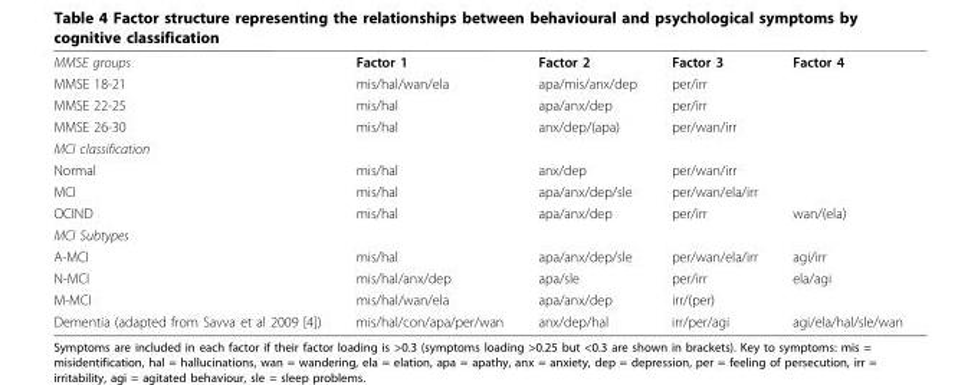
<table><tbody><tr><td>MMSE groups</td><td>Factor 1</td><td>Factor 2</td><td>Factor 3</td><td>Factor 4</td></tr><tr><td>MMSE 18-21</td><td>mis/hal/wan/ela</td><td>apa/mis/anx/dep</td><td>per/irr</td><td></td></tr><tr><td>MMSE 22-25</td><td>mis/hal</td><td>apa/anx/dep</td><td>per/irr</td><td></td></tr><tr><td>MMSE 26-30</td><td>mis/hal</td><td>anx/dep/(apa)</td><td>per/wan/irr</td><td></td></tr><tr><td colspan="5">MCI classification</td></tr><tr><td>Normal</td><td>mis/hal</td><td>anx/dep</td><td>per/wan/irr</td><td></td></tr><tr><td>MCI</td><td>mis/hal</td><td>apa/anx/dep/sle</td><td>per/wan/ela/irr</td><td></td></tr><tr><td>OCIND</td><td>mis/hal</td><td>apa/anx/dep</td><td>per/irr</td><td>wan/(ela)</td></tr><tr><td colspan="5">MCI Subtypes</td></tr><tr><td>A-MCI</td><td>mis/hal</td><td>apa/anx/dep/sle</td><td>per/wan/ela/irr</td><td>agi/irr</td></tr><tr><td>N-MCI</td><td>mis/hal/anx/dep</td><td>apa/sle</td><td>per/irr</td><td>ela/agi</td></tr><tr><td>M-MCI</td><td>mis/hal/wan/ela</td><td>apa/anx/dep</td><td>irr/(per)</td><td></td></tr><tr><td>Dementia (adapted from Savva et al 2009 [4])</td><td>mis/hal/con/apa/per/wan</td><td>anx/dep/hal</td><td>irr/per/agi</td><td>agi/ela/hal/sle/wan</td></tr></tbody></table>